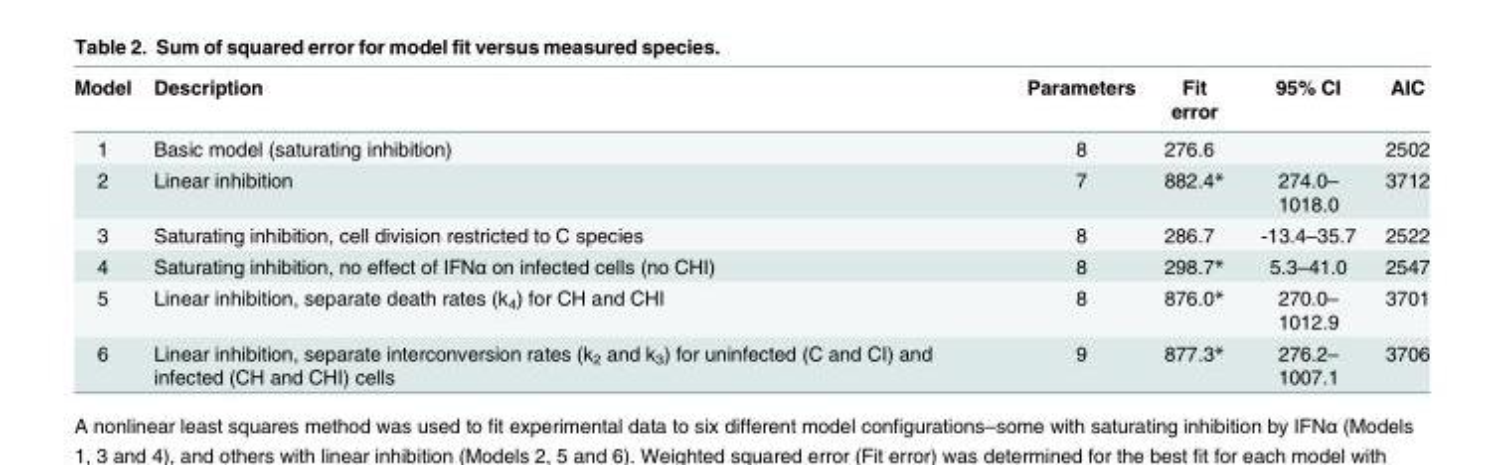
<table><thead><tr><td>Model</td><td>Description</td><td>Parameters</td><td>Fit error</td><td>95% CI</td><td>AIC</td></tr></thead><tbody><tr><td>1</td><td>Basic model (saturating inhibition)</td><td>8</td><td>276.6</td><td></td><td>2502</td></tr><tr><td>2</td><td>Linear inhibition</td><td>7</td><td>882.4*</td><td>274.0– 1018.0</td><td>3712</td></tr><tr><td>3</td><td>Saturating inhibition, cell division restricted to C species</td><td>8</td><td>286.7</td><td>-13.4–35.7</td><td>2522</td></tr><tr><td>4</td><td>Saturating inhibition, no effect of IFNα on infected cells (no CHI)</td><td>8</td><td>298.7*</td><td>5.3–41.0</td><td>2547</td></tr><tr><td>5</td><td>Linear inhibition, separate death rates (k<sub>4</sub>) for CH and CHI</td><td>8</td><td>876.0*</td><td>270.0– 1012.9</td><td>3701</td></tr><tr><td>6</td><td>Linear inhibition, separate interconversion rates (k<sub>2</sub> and k<sub>3</sub>) for uninfected (C and CI) and infected (CH and CHI) cells</td><td>9</td><td>877.3*</td><td>276.2– 1007.1</td><td>3706</td></tr></tbody></table>